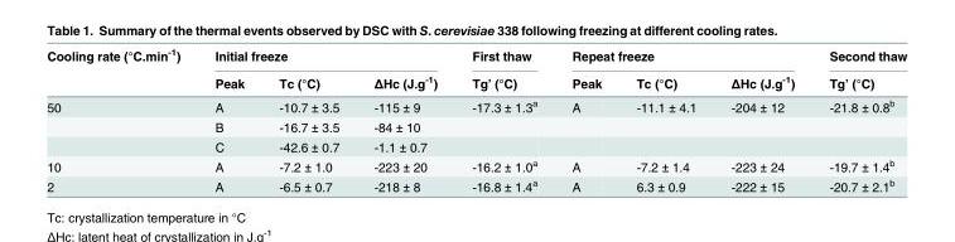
<table><thead><tr><td rowspan="2">Cooling rate (°C.min<sup>-1</sup>)</td><td colspan="3">Initial freeze</td><td rowspan="2">First thaw Tg’ (°C)</td><td colspan="3">Repeat freeze</td><td rowspan="2">Second thaw Tg’ (°C)</td></tr><tr><td>Peak</td><td>Tc (°C)</td><td>ΔHc (J.g<sup>-1</sup>)</td><td>Peak</td><td>Tc (°C)</td><td>ΔHc (J.g<sup>-1</sup>)</td></tr></thead><tbody><tr><td rowspan="3">50</td><td>A</td><td>-10.7 ± 3.5</td><td>-115 ± 9</td><td>-17.3 ± 1.3<sup>a</sup></td><td>A</td><td>-11.1 ± 4.1</td><td>-204 ± 12</td><td>-21.8 ± 0.8<sup>b</sup></td></tr><tr><td>B</td><td>-16.7 ± 3.5</td><td>-84 ± 10</td><td></td><td></td><td></td><td></td><td></td></tr><tr><td>C</td><td>-42.6 ± 0.7</td><td>-1.1 ± 0.7</td><td></td><td></td><td></td><td></td><td></td></tr><tr><td>10</td><td>A</td><td>-7.2 ± 1.0</td><td>-223 ± 20</td><td>-16.2 ± 1.0<sup>a</sup></td><td>A</td><td>-7.2 ± 1.4</td><td>-223 ± 24</td><td>-19.7 ± 1.4<sup>b</sup></td></tr><tr><td>2</td><td>A</td><td>-6.5 ± 0.7</td><td>-218 ± 8</td><td>-16.8 ± 1.4<sup>a</sup></td><td>A</td><td>6.3 ± 0.9</td><td>-222 ± 15</td><td>-20.7 ± 2.1<sup>b</sup></td></tr></tbody></table>